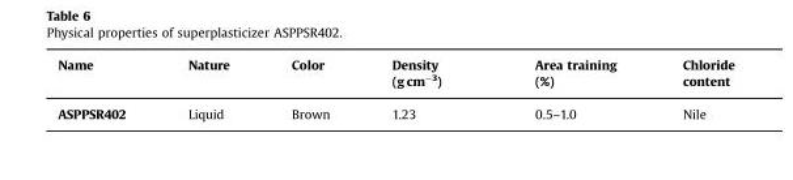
<table><thead><tr><td>Name</td><td>Nature</td><td>Color</td><td>Density (g cm<sup>−3</sup>)</td><td>Area training (%)</td><td>Chloride content</td></tr></thead><tbody><tr><td>ASPPSR402</td><td>Liquid</td><td>Brown</td><td>1.23</td><td>0.5–1.0</td><td>Nile</td></tr></tbody></table>